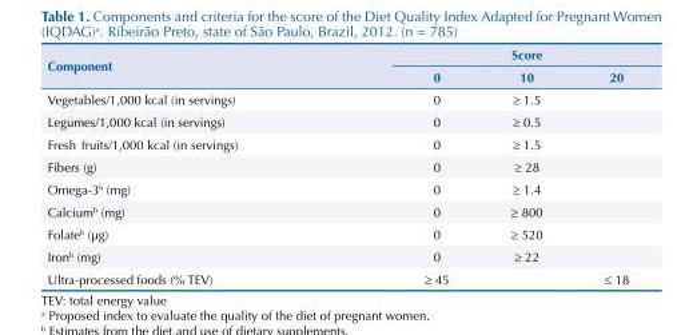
<table><thead><tr><td rowspan="2">Component</td><td colspan="3">Score</td></tr><tr><td>0</td><td>10</td><td>20</td></tr></thead><tbody><tr><td>Vegetables/1,000 kcal (in servings)</td><td>0</td><td>≥ 1.5</td><td></td></tr><tr><td>Legumes/1,000 kcal (in servings)</td><td>0</td><td>≥ 0.5</td><td></td></tr><tr><td>Fresh fruits/1,000 kcal (in servings)</td><td>0</td><td>≥ 1.5</td><td></td></tr><tr><td>Fibers (g)</td><td>0</td><td>≥ 28</td><td></td></tr><tr><td>Omega-3<sup>b</sup> (mg)</td><td>0</td><td>≥ 1.4</td><td></td></tr><tr><td>Calcium<sup>b</sup> (mg)</td><td>0</td><td>≥ 800</td><td></td></tr><tr><td>Folate<sup>b</sup> (µg)</td><td>0</td><td>≥ 520</td><td></td></tr><tr><td>Iron<sup>b</sup> (mg)</td><td>0</td><td>≥ 22</td><td></td></tr><tr><td>Ultra-processed foods (% TEV)</td><td>≥ 45</td><td></td><td>≤ 18</td></tr></tbody></table>